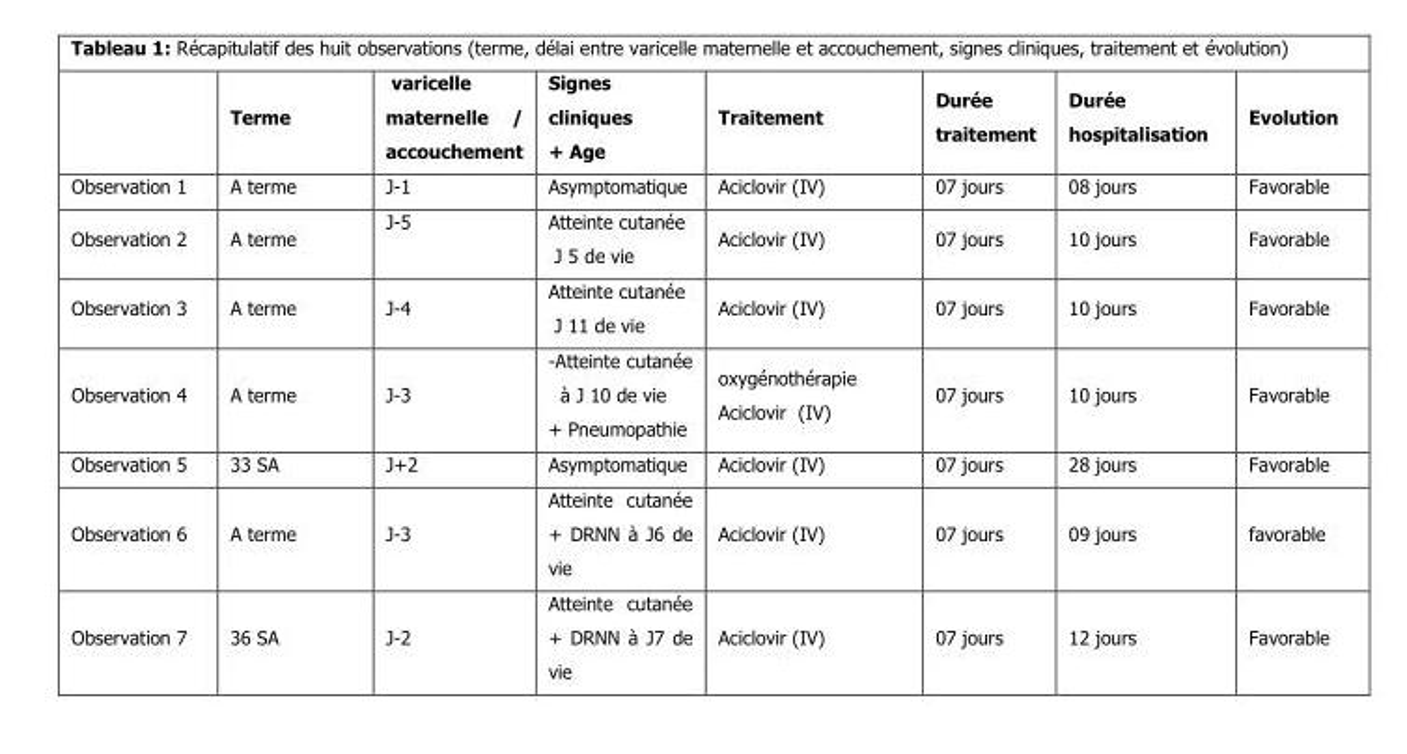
<table><thead><tr><td></td><td>Terme</td><td>varicelle maternelle / accouchement</td><td>Signes cliniques + Age</td><td>Traitement</td><td>Durée traitement</td><td>Durée hospitalisation</td><td>Evolution</td></tr></thead><tbody><tr><td>Observation 1</td><td>A terme</td><td>J-1</td><td>Asymptomatique</td><td>Aciclovir (IV)</td><td>07 jours</td><td>08 jours</td><td>Favorable</td></tr><tr><td>Observation 2</td><td>A terme</td><td>J-5</td><td>Atteinte cutanée J 5 de vie</td><td>Aciclovir (IV)</td><td>07 jours</td><td>10 jours</td><td>Favorable</td></tr><tr><td>Observation 3</td><td>A terme</td><td>J-4</td><td>Atteinte cutanée J 11 de vie</td><td>Aciclovir (IV)</td><td>07 jours</td><td>10 jours</td><td>Favorable</td></tr><tr><td>Observation 4</td><td>A terme</td><td>J-3</td><td>-Atteinte cutanée à J 10 de vie + Pneumopathie</td><td>oxygénothérapie Aciclovir (IV)</td><td>07 jours</td><td>10 jours</td><td>Favorable</td></tr><tr><td>Observation 5</td><td>33 SA</td><td>J+2</td><td>Asymptomatique</td><td>Aciclovir (IV)</td><td>07 jours</td><td>28 jours</td><td>Favorable</td></tr><tr><td>Observation 6</td><td>A terme</td><td>J-3</td><td>Atteinte cutanée + DRNN à J6 de vie</td><td>Aciclovir (IV)</td><td>07 jours</td><td>09 jours</td><td>favorable</td></tr><tr><td>Observation 7</td><td>36 SA</td><td>J-2</td><td>Atteinte cutanée + DRNN à J7 de vie</td><td>Aciclovir (IV)</td><td>07 jours</td><td>12 jours</td><td>Favorable</td></tr></tbody></table>